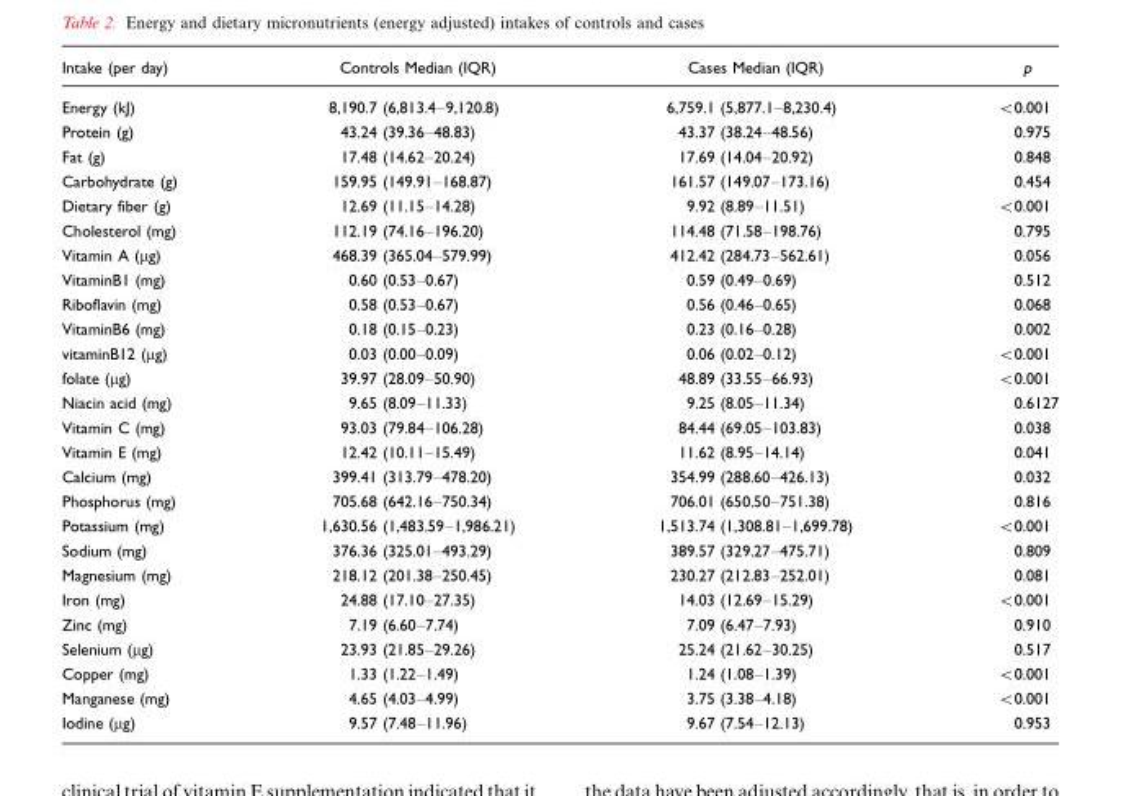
<table><thead><tr><td>Intake (per day)</td><td>Controls Median (IQR)</td><td>Cases Median (IQR)</td><td>p</td></tr></thead><tbody><tr><td>Energy (kJ)</td><td>8,190.7 (6,813.4–9,120.8)</td><td>6,759.1 (5,877.1–8,230.4)</td><td>&lt;0.001</td></tr><tr><td>Protein (g)</td><td>43.24 (39.36–48.83)</td><td>43.37 (38.24–48.56)</td><td>0.975</td></tr><tr><td>Fat (g)</td><td>17.48 (14.62–20.24)</td><td>17.69 (14.04–20.92)</td><td>0.848</td></tr><tr><td>Carbohydrate (g)</td><td>159.95 (149.91–168.87)</td><td>161.57 (149.07–173.16)</td><td>0.454</td></tr><tr><td>Dietary fiber (g)</td><td>12.69 (11.15–14.28)</td><td>9.92 (8.89–11.51)</td><td>&lt;0.001</td></tr><tr><td>Cholesterol (mg)</td><td>112.19 (74.16–196.20)</td><td>114.48 (71.58–198.76)</td><td>0.795</td></tr><tr><td>Vitamin A (µg)</td><td>468.39 (365.04–579.99)</td><td>412.42 (284.73–562.61)</td><td>0.056</td></tr><tr><td>VitaminB1 (mg)</td><td>0.60 (0.53–0.67)</td><td>0.59 (0.49–0.69)</td><td>0.512</td></tr><tr><td>Riboflavin (mg)</td><td>0.58 (0.53–0.67)</td><td>0.56 (0.46–0.65)</td><td>0.068</td></tr><tr><td>VitaminB6 (mg)</td><td>0.18 (0.15–0.23)</td><td>0.23 (0.16–0.28)</td><td>0.002</td></tr><tr><td>vitaminB12 (µg)</td><td>0.03 (0.00–0.09)</td><td>0.06 (0.02–0.12)</td><td>&lt;0.001</td></tr><tr><td>folate (µg)</td><td>39.97 (28.09–50.90)</td><td>48.89 (33.55–66.93)</td><td>&lt;0.001</td></tr><tr><td>Niacin acid (mg)</td><td>9.65 (8.09–11.33)</td><td>9.25 (8.05–11.34)</td><td>0.6127</td></tr><tr><td>Vitamin C (mg)</td><td>93.03 (79.84–106.28)</td><td>84.44 (69.05–103.83)</td><td>0.038</td></tr><tr><td>Vitamin E (mg)</td><td>12.42 (10.11–15.49)</td><td>11.62 (8.95–14.14)</td><td>0.041</td></tr><tr><td>Calcium (mg)</td><td>399.41 (313.79–478.20)</td><td>354.99 (288.60–426.13)</td><td>0.032</td></tr><tr><td>Phosphorus (mg)</td><td>705.68 (642.16–750.34)</td><td>706.01 (650.50–751.38)</td><td>0.816</td></tr><tr><td>Potassium (mg)</td><td>1,630.56 (1,483.59–1,986.21)</td><td>1,513.74 (1,308.81–1,699.78)</td><td>&lt;0.001</td></tr><tr><td>Sodium (mg)</td><td>376.36 (325.01–493.29)</td><td>389.57 (329.27–475.71)</td><td>0.809</td></tr><tr><td>Magnesium (mg)</td><td>218.12 (201.38–250.45)</td><td>230.27 (212.83–252.01)</td><td>0.081</td></tr><tr><td>Iron (mg)</td><td>24.88 (17.10–27.35)</td><td>14.03 (12.69–15.29)</td><td>&lt;0.001</td></tr><tr><td>Zinc (mg)</td><td>7.19 (6.60–7.74)</td><td>7.09 (6.47–7.93)</td><td>0.910</td></tr><tr><td>Selenium (µg)</td><td>23.93 (21.85–29.26)</td><td>25.24 (21.62–30.25)</td><td>0.517</td></tr><tr><td>Copper (mg)</td><td>1.33 (1.22–1.49)</td><td>1.24 (1.08–1.39)</td><td>&lt;0.001</td></tr><tr><td>Manganese (mg)</td><td>4.65 (4.03–4.99)</td><td>3.75 (3.38–4.18)</td><td>&lt;0.001</td></tr><tr><td>Iodine (µg)</td><td>9.57 (7.48–11.96)</td><td>9.67 (7.54–12.13)</td><td>0.953</td></tr></tbody></table>